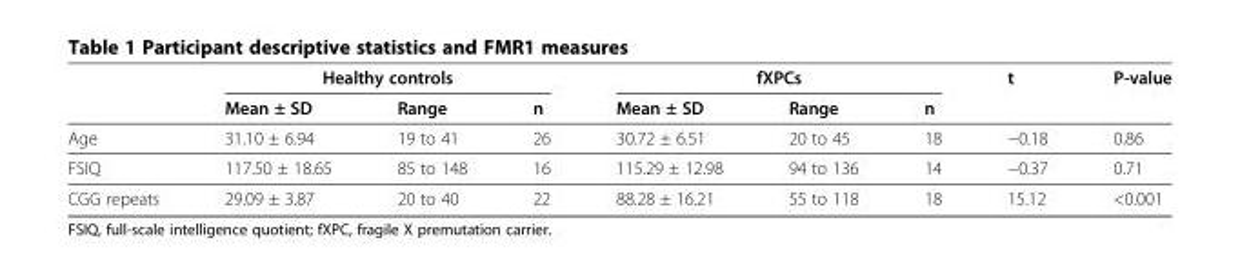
<table><thead><tr><td rowspan="2"></td><td colspan="3">Healthy controls</td><td colspan="3">fXPCs</td><td rowspan="2">t</td><td rowspan="2">P-value</td></tr><tr><td>Mean ± SD</td><td>Range</td><td>n</td><td>Mean ± SD</td><td>Range</td><td>n</td></tr></thead><tbody><tr><td>Age</td><td>31.10 ± 6.94</td><td>19 to 41</td><td>26</td><td>30.72 ± 6.51</td><td>20 to 45</td><td>18</td><td>−0.18</td><td>0.86</td></tr><tr><td>FSIQ</td><td>117.50 ± 18.65</td><td>85 to 148</td><td>16</td><td>115.29 ± 12.98</td><td>94 to 136</td><td>14</td><td>−0.37</td><td>0.71</td></tr><tr><td>CGG repeats</td><td>29.09 ± 3.87</td><td>20 to 40</td><td>22</td><td>88.28 ± 16.21</td><td>55 to 118</td><td>18</td><td>15.12</td><td>&lt;0.001</td></tr></tbody></table>